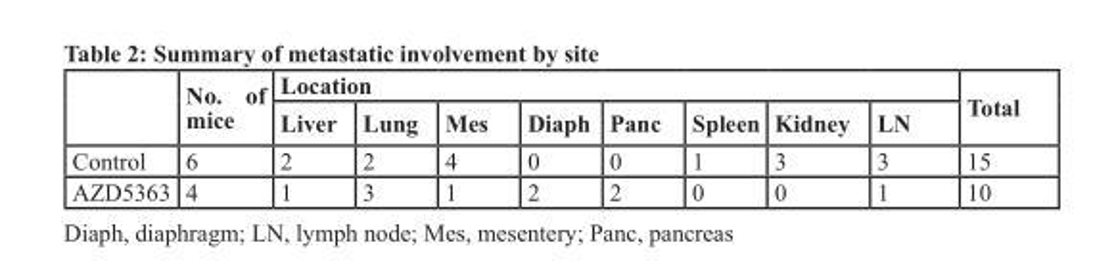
<table><thead><tr><td rowspan="2"></td><td rowspan="2">No. of mice</td><td colspan="8">Location</td><td rowspan="2">Total</td></tr><tr><td>Liver</td><td>Lung</td><td>Mes</td><td>Diaph</td><td>Panc</td><td>Spleen</td><td>Kidney</td><td>LN</td></tr></thead><tbody><tr><td>Control</td><td>6</td><td>2</td><td>2</td><td>4</td><td>0</td><td>0</td><td>1</td><td>3</td><td>3</td><td>15</td></tr><tr><td>AZD5363</td><td>4</td><td>1</td><td>3</td><td>1</td><td>2</td><td>2</td><td>0</td><td>0</td><td>1</td><td>10</td></tr></tbody></table>